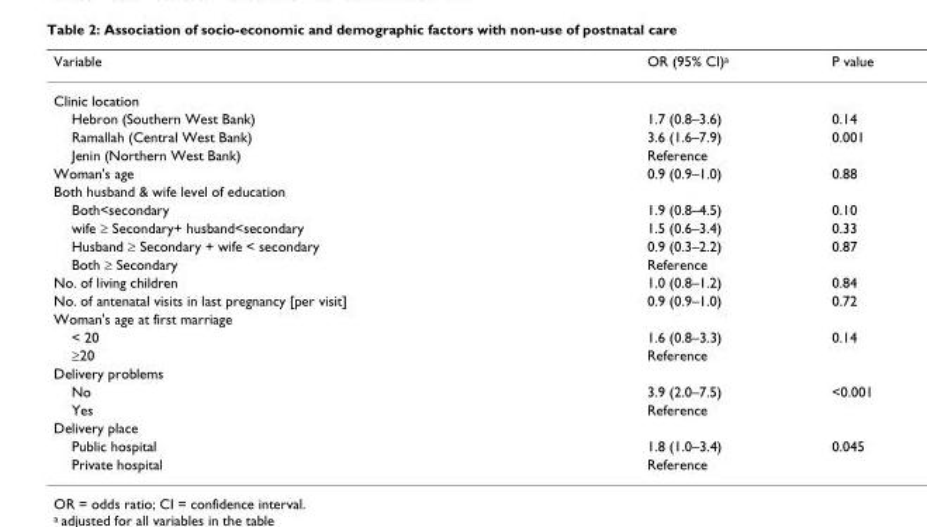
<table><thead><tr><td>Variable</td><td>OR (95% CI)<sup>a</sup></td><td>P value</td></tr></thead><tbody><tr><td colspan="3">Clinic location</td></tr><tr><td>Hebron (Southern West Bank)</td><td>1.7 (0.8–3.6)</td><td>0.14</td></tr><tr><td>Ramallah (Central West Bank)</td><td>3.6 (1.6–7.9)</td><td>0.001</td></tr><tr><td>Jenin (Northern West Bank)</td><td>Reference</td><td></td></tr><tr><td>Woman&#x27;s age</td><td>0.9 (0.9–1.0)</td><td>0.88</td></tr><tr><td colspan="3">Both husband &amp; wife level of education</td></tr><tr><td>Both&lt;secondary</td><td>1.9 (0.8–4.5)</td><td>0.10</td></tr><tr><td>wife ≥ Secondary+ husband&lt;secondary</td><td>1.5 (0.6–3.4)</td><td>0.33</td></tr><tr><td>Husband ≥ Secondary + wife &lt; secondary</td><td>0.9 (0.3–2.2)</td><td>0.87</td></tr><tr><td>Both ≥ Secondary</td><td>Reference</td><td></td></tr><tr><td>No. of living children</td><td>1.0 (0.8–1.2)</td><td>0.84</td></tr><tr><td>No. of antenatal visits in last pregnancy [per visit]</td><td>0.9 (0.9–1.0)</td><td>0.72</td></tr><tr><td colspan="3">Woman&#x27;s age at first marriage</td></tr><tr><td>&lt; 20</td><td>1.6 (0.8–3.3)</td><td>0.14</td></tr><tr><td>≥20</td><td>Reference</td><td></td></tr><tr><td colspan="3">Delivery problems</td></tr><tr><td>No</td><td>3.9 (2.0–7.5)</td><td>&lt;0.001</td></tr><tr><td>Yes</td><td>Reference</td><td></td></tr><tr><td colspan="3">Delivery place</td></tr><tr><td>Public hospital</td><td>1.8 (1.0–3.4)</td><td>0.045</td></tr><tr><td>Private hospital</td><td>Reference</td><td></td></tr></tbody></table>